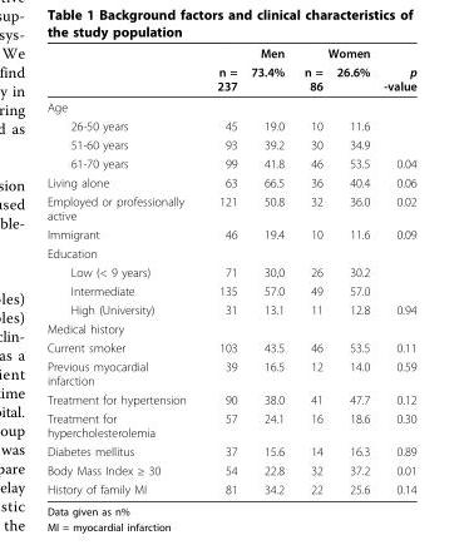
<table><thead><tr><td rowspan="2"></td><td colspan="2">Men</td><td colspan="2">Women</td><td rowspan="2">p -value</td></tr><tr><td>n = 237</td><td>73.4%</td><td>n = 86</td><td>26.6%</td></tr></thead><tbody><tr><td colspan="6">Age</td></tr><tr><td>26-50 years</td><td>45</td><td>19.0</td><td>10</td><td>11.6</td><td></td></tr><tr><td>51-60 years</td><td>93</td><td>39.2</td><td>30</td><td>34.9</td><td></td></tr><tr><td>61-70 years</td><td>99</td><td>41.8</td><td>46</td><td>53.5</td><td>0.04</td></tr><tr><td>Living alone</td><td>63</td><td>66.5</td><td>36</td><td>40.4</td><td>0.06</td></tr><tr><td>Employed or professionally active</td><td>121</td><td>50.8</td><td>32</td><td>36.0</td><td>0.02</td></tr><tr><td>Immigrant</td><td>46</td><td>19.4</td><td>10</td><td>11.6</td><td>0.09</td></tr><tr><td colspan="6">Education</td></tr><tr><td>Low (&lt; 9 years)</td><td>71</td><td>30,0</td><td>26</td><td>30.2</td><td></td></tr><tr><td>Intermediate</td><td>135</td><td>57.0</td><td>49</td><td>57.0</td><td></td></tr><tr><td>High (University)</td><td>31</td><td>13.1</td><td>11</td><td>12.8</td><td>0.94</td></tr><tr><td colspan="6">Medical history</td></tr><tr><td>Current smoker</td><td>103</td><td>43.5</td><td>46</td><td>53.5</td><td>0.11</td></tr><tr><td>Previous myocardial infarction</td><td>39</td><td>16.5</td><td>12</td><td>14.0</td><td>0.59</td></tr><tr><td>Treatment for hypertension</td><td>90</td><td>38.0</td><td>41</td><td>47.7</td><td>0.12</td></tr><tr><td>Treatment for hypercholesterolemia</td><td>57</td><td>24.1</td><td>16</td><td>18.6</td><td>0.30</td></tr><tr><td>Diabetes mellitus</td><td>37</td><td>15.6</td><td>14</td><td>16.3</td><td>0.89</td></tr><tr><td>Body Mass Index ≥ 30</td><td>54</td><td>22.8</td><td>32</td><td>37.2</td><td>0.01</td></tr><tr><td>History of family MI</td><td>81</td><td>34.2</td><td>22</td><td>25.6</td><td>0.14</td></tr></tbody></table>